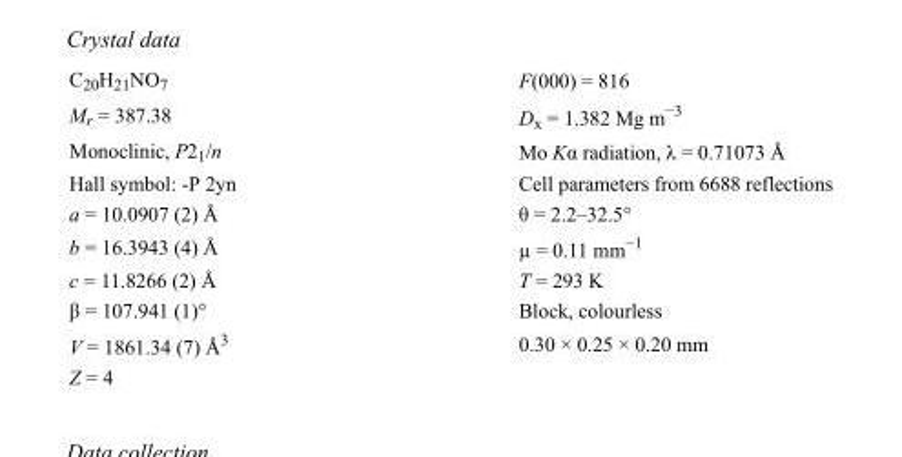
<table><tbody><tr><td>C<sub>20</sub>H<sub>21</sub>NO<sub>7</sub></td><td>F(000) = 816</td></tr><tr><td>M<sub>r</sub> = 387.38</td><td>D<sub>x</sub> = 1.382 Mg m<sup>−3</sup></td></tr><tr><td>Monoclinic, P2<sub>1</sub>/n</td><td>Mo Kα radiation, λ = 0.71073 Å</td></tr><tr><td>Hall symbol: -P 2yn</td><td>Cell parameters from 6688 reflections</td></tr><tr><td>a = 10.0907 (2) Å</td><td>θ = 2.2–32.5°</td></tr><tr><td>b = 16.3943 (4) Å</td><td>µ = 0.11 mm<sup>−1</sup></td></tr><tr><td>c = 11.8266 (2) Å</td><td>T = 293 K</td></tr><tr><td>β = 107.941 (1)°</td><td>Block, colourless</td></tr><tr><td>V = 1861.34 (7) Å<sup>3</sup></td><td>0.30 × 0.25 × 0.20 mm</td></tr><tr><td>Z = 4</td><td></td></tr></tbody></table>